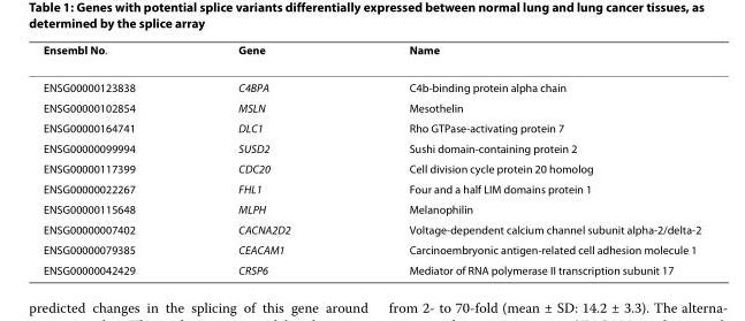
<table><thead><tr><td>Ensembl No.</td><td>Gene</td><td>Name</td></tr></thead><tbody><tr><td>ENSG00000123838</td><td>C4BPA</td><td>C4b-binding protein alpha chain</td></tr><tr><td>ENSG00000102854</td><td>MSLN</td><td>Mesothelin</td></tr><tr><td>ENSG00000164741</td><td>DLC1</td><td>Rho GTPase-activating protein 7</td></tr><tr><td>ENSG00000099994</td><td>SUSD2</td><td>Sushi domain-containing protein 2</td></tr><tr><td>ENSG00000117399</td><td>CDC20</td><td>Cell division cycle protein 20 homolog</td></tr><tr><td>ENSG00000022267</td><td>FHL1</td><td>Four and a half LIM domains protein 1</td></tr><tr><td>ENSG00000115648</td><td>MLPH</td><td>Melanophilin</td></tr><tr><td>ENSG00000007402</td><td>CACNA2D2</td><td>Voltage-dependent calcium channel subunit alpha-2/delta-2</td></tr><tr><td>ENSG00000079385</td><td>CEACAM1</td><td>Carcinoembryonic antigen-related cell adhesion molecule 1</td></tr><tr><td>ENSG00000042429</td><td>CRSP6</td><td>Mediator of RNA polymerase II transcription subunit 17</td></tr></tbody></table>